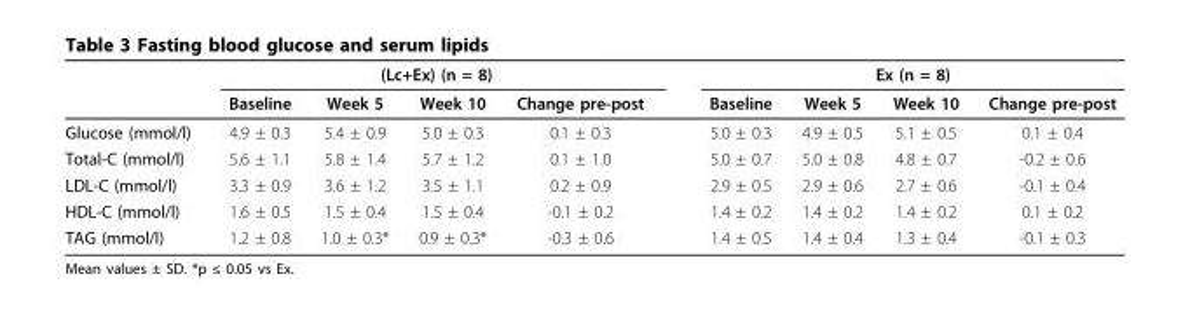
<table><thead><tr><td rowspan="2"></td><td colspan="4">(Lc+Ex) (n = 8)</td><td colspan="4">Ex (n = 8)</td></tr><tr><td>Baseline</td><td>Week 5</td><td>Week 10</td><td>Change pre-post</td><td>Baseline</td><td>Week 5</td><td>Week 10</td><td>Change pre-post</td></tr></thead><tbody><tr><td>Glucose (mmol/l)</td><td>4.9 ± 0.3</td><td>5.4 ± 0.9</td><td>5.0 ± 0.3</td><td>0.1 ± 0.3</td><td>5.0 ± 0.3</td><td>4.9 ± 0.5</td><td>5.1 ± 0.5</td><td>0.1 ± 0.4</td></tr><tr><td>Total-C (mmol/l)</td><td>5.6 ± 1.1</td><td>5.8 ± 1.4</td><td>5.7 ± 1.2</td><td>0.1 ± 1.0</td><td>5.0 ± 0.7</td><td>5.0 ± 0.8</td><td>4.8 ± 0.7</td><td>-0.2 ± 0.6</td></tr><tr><td>LDL-C (mmol/l)</td><td>3.3 ± 0.9</td><td>3.6 ± 1.2</td><td>3.5 ± 1.1</td><td>0.2 ± 0.9</td><td>2.9 ± 0.5</td><td>2.9 ± 0.6</td><td>2.7 ± 0.6</td><td>-0.1 ± 0.4</td></tr><tr><td>HDL-C (mmol/l)</td><td>1.6 ± 0.5</td><td>1.5 ± 0.4</td><td>1.5 ± 0.4</td><td>-0.1 ± 0.2</td><td>1.4 ± 0.2</td><td>1.4 ± 0.2</td><td>1.4 ± 0.2</td><td>0.1 ± 0.2</td></tr><tr><td>TAG (mmol/l)</td><td>1.2 ± 0.8</td><td>1.0 ± 0.3*</td><td>0.9 ± 0.3*</td><td>-0.3 ± 0.6</td><td>1.4 ± 0.5</td><td>1.4 ± 0.4</td><td>1.3 ± 0.4</td><td>-0.1 ± 0.3</td></tr></tbody></table>